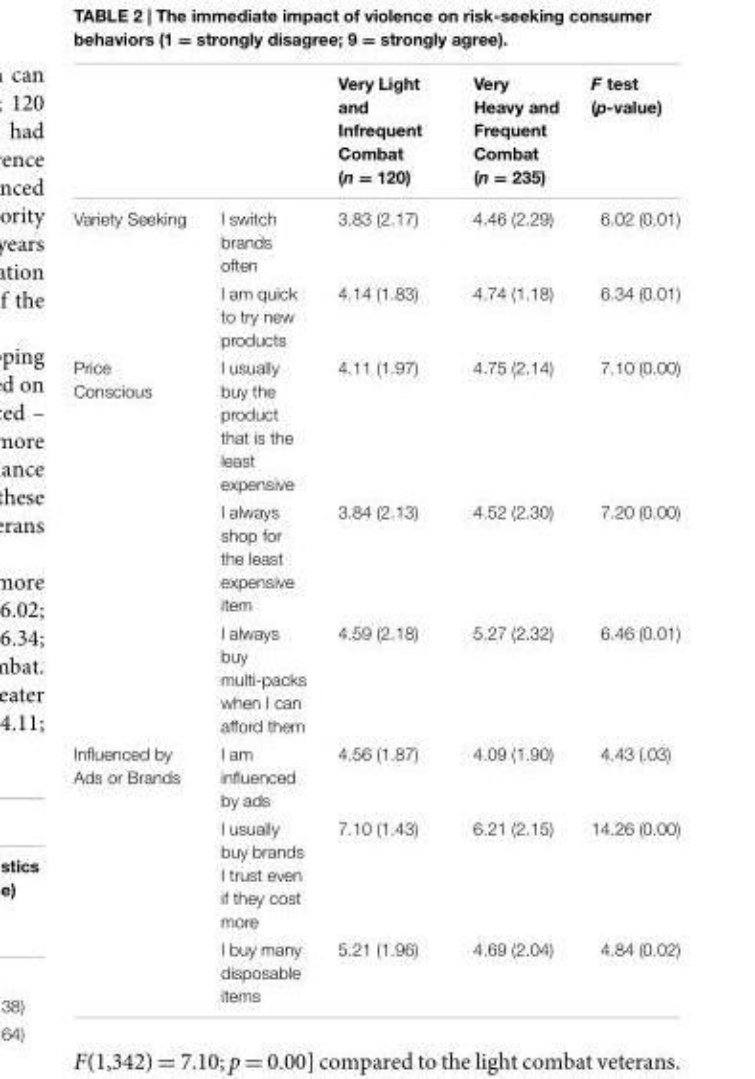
<table><thead><tr><td></td><td></td><td>Very Light and Infrequent Combat (n = 120)</td><td>Very Heavy and Frequent Combat (n = 235)</td><td>F test (p-value)</td></tr></thead><tbody><tr><td rowspan="2">Variety Seeking</td><td>I switch brands often</td><td>3.83 (2.17)</td><td>4.46 (2.29)</td><td>6.02 (0.01)</td></tr><tr><td>I am quick to try new products</td><td>4.14 (1.83)</td><td>4.74 (1.18)</td><td>6.34 (0.01)</td></tr><tr><td rowspan="3">Price Conscious</td><td>I usually buy the product that is the least expensive</td><td>4.11 (1.97)</td><td>4.75 (2.14)</td><td>7.10 (0.00)</td></tr><tr><td>I always shop for the least expensive item</td><td>3.84 (2.13)</td><td>4.52 (2.30)</td><td>7.20 (0.00)</td></tr><tr><td>I always buy multi-packs when I can afford them</td><td>4.59 (2.18)</td><td>5.27 (2.32)</td><td>6.46 (0.01)</td></tr><tr><td rowspan="3">Influenced by Ads or Brands</td><td>I am influenced by ads</td><td>4.56 (1.87)</td><td>4.09 (1.90)</td><td>4.43 (.03)</td></tr><tr><td>I usually buy brands I trust even if they cost more</td><td>7.10 (1.43)</td><td>6.21 (2.15)</td><td>14.26 (0.00)</td></tr><tr><td>I buy many disposable items</td><td>5.21 (1.96)</td><td>4.69 (2.04)</td><td>4.84 (0.02)</td></tr></tbody></table>